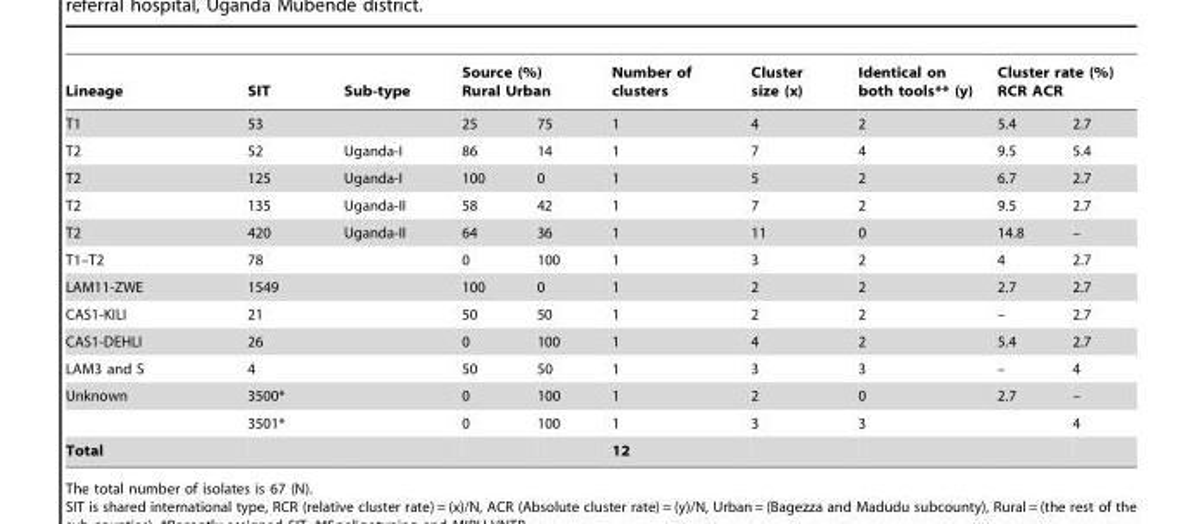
<table><thead><tr><td rowspan="2">Lineage T1</td><td rowspan="2">SIT 53</td><td rowspan="2">Sub-type</td><td colspan="2">Source (%) Rural Urban</td><td rowspan="2">Number of clusters 1</td><td rowspan="2">Cluster size (x) 4</td><td rowspan="2">Identical on both tools** (y) 2</td><td colspan="2">Cluster rate (%) RCR ACR</td></tr><tr><td>25</td><td>75</td><td>5.4</td><td>2.7</td></tr></thead><tbody><tr><td>T2</td><td>52</td><td>Uganda-I</td><td>86</td><td>14</td><td>1</td><td>7</td><td>4</td><td>9.5</td><td>5.4</td></tr><tr><td>T2</td><td>125</td><td>Uganda-I</td><td>100</td><td>0</td><td>1</td><td>5</td><td>2</td><td>6.7</td><td>2.7</td></tr><tr><td>T2</td><td>135</td><td>Uganda-II</td><td>58</td><td>42</td><td>1</td><td>7</td><td>2</td><td>9.5</td><td>2.7</td></tr><tr><td>T2</td><td>420</td><td>Uganda-II</td><td>64</td><td>36</td><td>1</td><td>11</td><td>0</td><td>14.8</td><td>–</td></tr><tr><td>T1–T2</td><td>78</td><td></td><td>0</td><td>100</td><td>1</td><td>3</td><td>2</td><td>4</td><td>2.7</td></tr><tr><td>LAM11-ZWE</td><td>1549</td><td></td><td>100</td><td>0</td><td>1</td><td>2</td><td>2</td><td>2.7</td><td>2.7</td></tr><tr><td>CAS1-KILI</td><td>21</td><td></td><td>50</td><td>50</td><td>1</td><td>2</td><td>2</td><td>–</td><td>2.7</td></tr><tr><td>CAS1-DEHLI</td><td>26</td><td></td><td>0</td><td>100</td><td>1</td><td>4</td><td>2</td><td>5.4</td><td>2.7</td></tr><tr><td>LAM3 and S</td><td>4</td><td></td><td>50</td><td>50</td><td>1</td><td>3</td><td>3</td><td>–</td><td>4</td></tr><tr><td rowspan="2">Unknown</td><td>3500*</td><td></td><td>0</td><td>100</td><td>1</td><td>2</td><td>0</td><td>2.7</td><td>–</td></tr><tr><td>3501*</td><td></td><td>0</td><td>100</td><td>1</td><td>3</td><td>3</td><td></td><td>4</td></tr><tr><td>Total</td><td></td><td></td><td></td><td></td><td>12</td><td></td><td></td><td></td><td></td></tr></tbody></table>